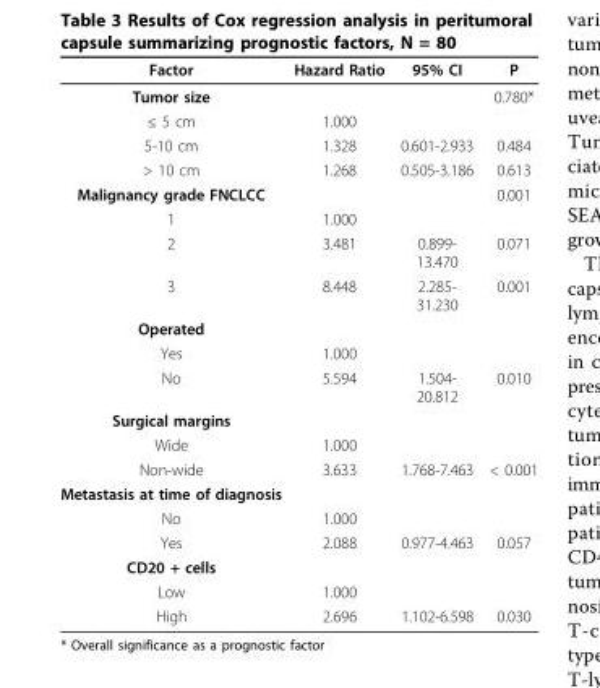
<table><thead><tr><td>Factor</td><td>Hazard Ratio</td><td>95% CI</td><td>P</td></tr></thead><tbody><tr><td>Tumor size</td><td></td><td></td><td>0.780*</td></tr><tr><td>≤ 5 cm</td><td>1.000</td><td></td><td></td></tr><tr><td>5-10 cm</td><td>1.328</td><td>0.601-2.933</td><td>0.484</td></tr><tr><td>&gt; 10 cm</td><td>1.268</td><td>0.505-3.186</td><td>0.613</td></tr><tr><td>Malignancy grade FNCLCC</td><td></td><td></td><td>0.001</td></tr><tr><td>1</td><td>1.000</td><td></td><td></td></tr><tr><td>2</td><td>3.481</td><td>0.899- 13.470</td><td>0.071</td></tr><tr><td>3</td><td>8.448</td><td>2.285- 31.230</td><td>0.001</td></tr><tr><td colspan="4">Operated</td></tr><tr><td>Yes</td><td>1.000</td><td></td><td></td></tr><tr><td>No</td><td>5.594</td><td>1.504- 20.812</td><td>0.010</td></tr><tr><td colspan="4">Surgical margins</td></tr><tr><td>Wide</td><td>1.000</td><td></td><td></td></tr><tr><td>Non-wide</td><td>3.633</td><td>1.768-7.463</td><td>&lt; 0.001</td></tr><tr><td colspan="4">Metastasis at time of diagnosis</td></tr><tr><td>No</td><td>1.000</td><td></td><td></td></tr><tr><td>Yes</td><td>2.088</td><td>0.977-4.463</td><td>0.057</td></tr><tr><td colspan="4">CD20 + cells</td></tr><tr><td>Low</td><td>1.000</td><td></td><td></td></tr><tr><td>High</td><td>2.696</td><td>1.102-6.598</td><td>0.030</td></tr></tbody></table>